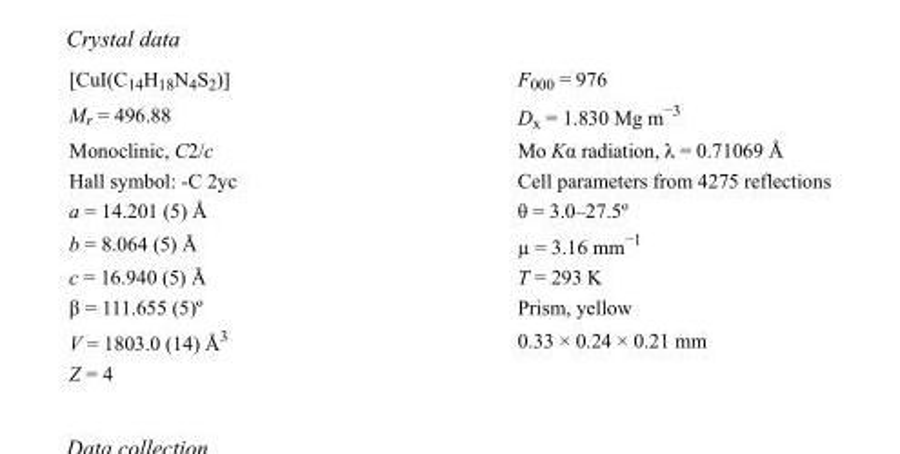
<table><tbody><tr><td>[CuI(C<sub>14</sub>H<sub>18</sub>N<sub>4</sub>S<sub>2</sub>)]</td><td>F000 = 976</td></tr><tr><td>M<sub>r</sub> = 496.88</td><td>D<sub>x</sub> = 1.830 Mg m<sup>−3</sup></td></tr><tr><td>Monoclinic, C2/c</td><td>Mo Kα radiation, λ = 0.71069 Å</td></tr><tr><td>Hall symbol: -C 2yc</td><td>Cell parameters from 4275 reflections</td></tr><tr><td>a = 14.201 (5) Å</td><td>θ = 3.0–27.5º</td></tr><tr><td>b = 8.064 (5) Å</td><td>µ = 3.16 mm<sup>−1</sup></td></tr><tr><td>c = 16.940 (5) Å</td><td>T = 293 K</td></tr><tr><td>β = 111.655 (5)º</td><td>Prism, yellow</td></tr><tr><td>V = 1803.0 (14) Å<sup>3</sup></td><td>0.33 × 0.24 × 0.21 mm</td></tr><tr><td>Z = 4</td><td></td></tr></tbody></table>